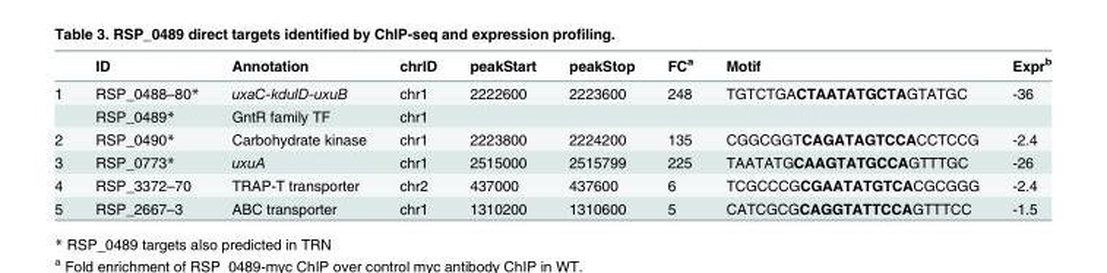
<table><thead><tr><td></td><td>ID</td><td>Annotation</td><td>chrID</td><td>peakStart</td><td>peakStop</td><td>FC<sup>a</sup></td><td>Motif</td><td>Expr<sup>b</sup></td></tr></thead><tbody><tr><td rowspan="2">1</td><td>RSP_0488–80*</td><td>uxaC-kduID-uxuB</td><td>chr1</td><td>2222600</td><td>2223600</td><td>248</td><td>TGTCTGACTAATATGCTAGTATGC</td><td>-36</td></tr><tr><td>RSP_0489*</td><td>GntR family TF</td><td>chr1</td><td></td><td></td><td></td><td></td><td></td></tr><tr><td>2</td><td>RSP_0490*</td><td>Carbohydrate kinase</td><td>chr1</td><td>2223800</td><td>2224200</td><td>135</td><td>CGGCGGTCAGATAGTCCACCTCCG</td><td>-2.4</td></tr><tr><td>3</td><td>RSP_0773*</td><td>uxuA</td><td>chr1</td><td>2515000</td><td>2515799</td><td>225</td><td>TAATATGCAAGTATGCCAGTTTGC</td><td>-26</td></tr><tr><td>4</td><td>RSP_3372–70</td><td>TRAP-T transporter</td><td>chr2</td><td>437000</td><td>437600</td><td>6</td><td>TCGCCCGCGAATATGTCACGCGGG</td><td>-2.4</td></tr><tr><td>5</td><td>RSP_2667–3</td><td>ABC transporter</td><td>chr1</td><td>1310200</td><td>1310600</td><td>5</td><td>CATCGCGCAGGTATTCCAGTTTCC</td><td>-1.5</td></tr></tbody></table>